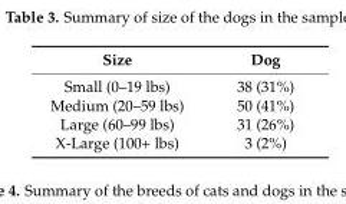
<table><thead><tr><td>Size</td><td>Dog</td></tr></thead><tbody><tr><td>Small (0–19 lbs)</td><td>38 (31%)</td></tr><tr><td>Medium (20–59 lbs)</td><td>50 (41%)</td></tr><tr><td>Large (60–99 lbs)</td><td>31 (26%)</td></tr><tr><td>X-Large (100+ lbs)</td><td>3 (2%)</td></tr></tbody></table>